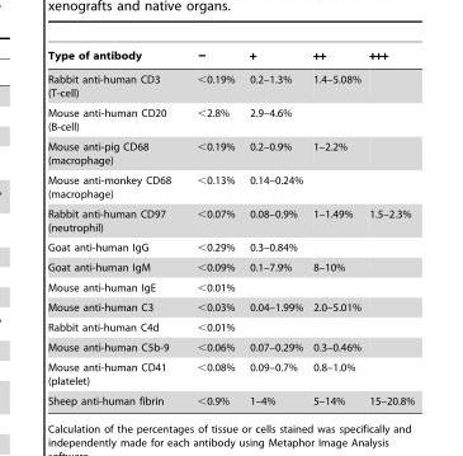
<table><thead><tr><td>Type of antibody</td><td>−</td><td>+</td><td>++</td><td>+++</td></tr></thead><tbody><tr><td>Rabbit anti-human CD3 (T-cell)</td><td>&lt;0.19%</td><td>0.2–1.3%</td><td>1.4–5.08%</td><td></td></tr><tr><td>Mouse anti-human CD20 (B-cell)</td><td>&lt;2.8%</td><td>2.9–4.6%</td><td></td><td></td></tr><tr><td>Mouse anti-pig CD68 (macrophage)</td><td>&lt;0.19%</td><td>0.2–0.9%</td><td>1–2.2%</td><td></td></tr><tr><td>Mouse anti-monkey CD68 (macrophage)</td><td>&lt;0.13%</td><td>0.14–0.24%</td><td></td><td></td></tr><tr><td>Rabbit anti-human CD97 (neutrophil)</td><td>&lt;0.07%</td><td>0.08–0.9%</td><td>1–1.49%</td><td>1.5–2.3%</td></tr><tr><td>Goat anti-human IgG</td><td>&lt;0.29%</td><td>0.3–0.84%</td><td></td><td></td></tr><tr><td>Goat anti-human IgM</td><td>&lt;0.09%</td><td>0.1–7.9%</td><td>8–10%</td><td></td></tr><tr><td>Mouse anti-human IgE</td><td>&lt;0.01%</td><td></td><td></td><td></td></tr><tr><td>Mouse anti-human C3</td><td>&lt;0.03%</td><td>0.04–1.99%</td><td>2.0–5.01%</td><td></td></tr><tr><td>Rabbit anti-human C4d</td><td>&lt;0.01%</td><td></td><td></td><td></td></tr><tr><td>Mouse anti-human C5b-9</td><td>&lt;0.06%</td><td>0.07–0.29%</td><td>0.3–0.46%</td><td></td></tr><tr><td>Mouse anti-human CD41 (platelet)</td><td>&lt;0.08%</td><td>0.09–0.7%</td><td>0.8–1.0%</td><td></td></tr><tr><td>Sheep anti-human fibrin</td><td>&lt;0.9%</td><td>1–4%</td><td>5–14%</td><td>15–20.8%</td></tr></tbody></table>